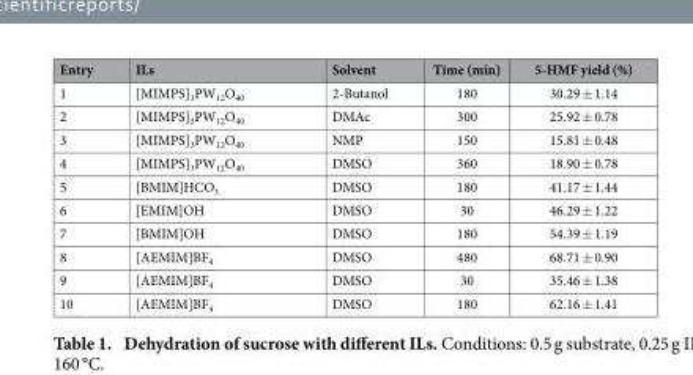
<table><thead><tr><td>Entry</td><td>ILs</td><td>Solvent</td><td>Time (min)</td><td>5-HMF yield (%)</td></tr></thead><tbody><tr><td>1</td><td>[MIMPS]<sub>3</sub>PW<sub>12</sub>O<sub>40</sub></td><td>2-Butanol</td><td>180</td><td>30.29 ± 1.14</td></tr><tr><td>2</td><td>[MIMPS]<sub>3</sub>PW<sub>12</sub>O<sub>40</sub></td><td>DMAc</td><td>300</td><td>25.92 ± 0.78</td></tr><tr><td>3</td><td>[MIMPS]<sub>3</sub>PW<sub>12</sub>O<sub>40</sub></td><td>NMP</td><td>150</td><td>15.81 ± 0.48</td></tr><tr><td>4</td><td>[MIMPS]<sub>3</sub>PW<sub>12</sub>O<sub>40</sub></td><td>DMSO</td><td>360</td><td>18.90 ± 0.78</td></tr><tr><td>5</td><td>[BMIM]HCO<sub>3</sub></td><td>DMSO</td><td>180</td><td>41.17 ± 1.44</td></tr><tr><td>6</td><td>[EMIM]OH</td><td>DMSO</td><td>30</td><td>46.29 ± 1.22</td></tr><tr><td>7</td><td>[BMIM]OH</td><td>DMSO</td><td>180</td><td>54.39 ± 1.19</td></tr><tr><td>8</td><td>[AEMIM]BF<sub>4</sub></td><td>DMSO</td><td>480</td><td>68.71 ± 0.90</td></tr><tr><td>9</td><td>[AEMIM]BF<sub>4</sub></td><td>DMSO</td><td>30</td><td>35.46 ± 1.38</td></tr><tr><td>10</td><td>[AEMIM]BF<sub>4</sub></td><td>DMSO</td><td>180</td><td>62.16 ± 1.41</td></tr></tbody></table>